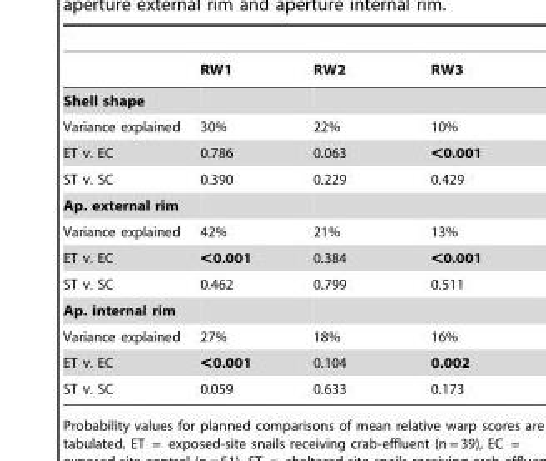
<table><thead><tr><td></td><td>RW1</td><td>RW2</td><td>RW3</td></tr></thead><tbody><tr><td colspan="4">Shell shape</td></tr><tr><td>Variance explained</td><td>30%</td><td>22%</td><td>10%</td></tr><tr><td>ET v. EC</td><td>0.786</td><td>0.063</td><td>&lt;0.001</td></tr><tr><td>ST v. SC</td><td>0.390</td><td>0.229</td><td>0.429</td></tr><tr><td colspan="4">Ap. external rim</td></tr><tr><td>Variance explained</td><td>42%</td><td>21%</td><td>13%</td></tr><tr><td>ET v. EC</td><td>&lt;0.001</td><td>0.384</td><td>&lt;0.001</td></tr><tr><td>ST v. SC</td><td>0.462</td><td>0.799</td><td>0.511</td></tr><tr><td colspan="4">Ap. internal rim</td></tr><tr><td>Variance explained</td><td>27%</td><td>18%</td><td>16%</td></tr><tr><td>ET v. EC</td><td>&lt;0.001</td><td>0.104</td><td>0.002</td></tr><tr><td>ST v. SC</td><td>0.059</td><td>0.633</td><td>0.173</td></tr></tbody></table>